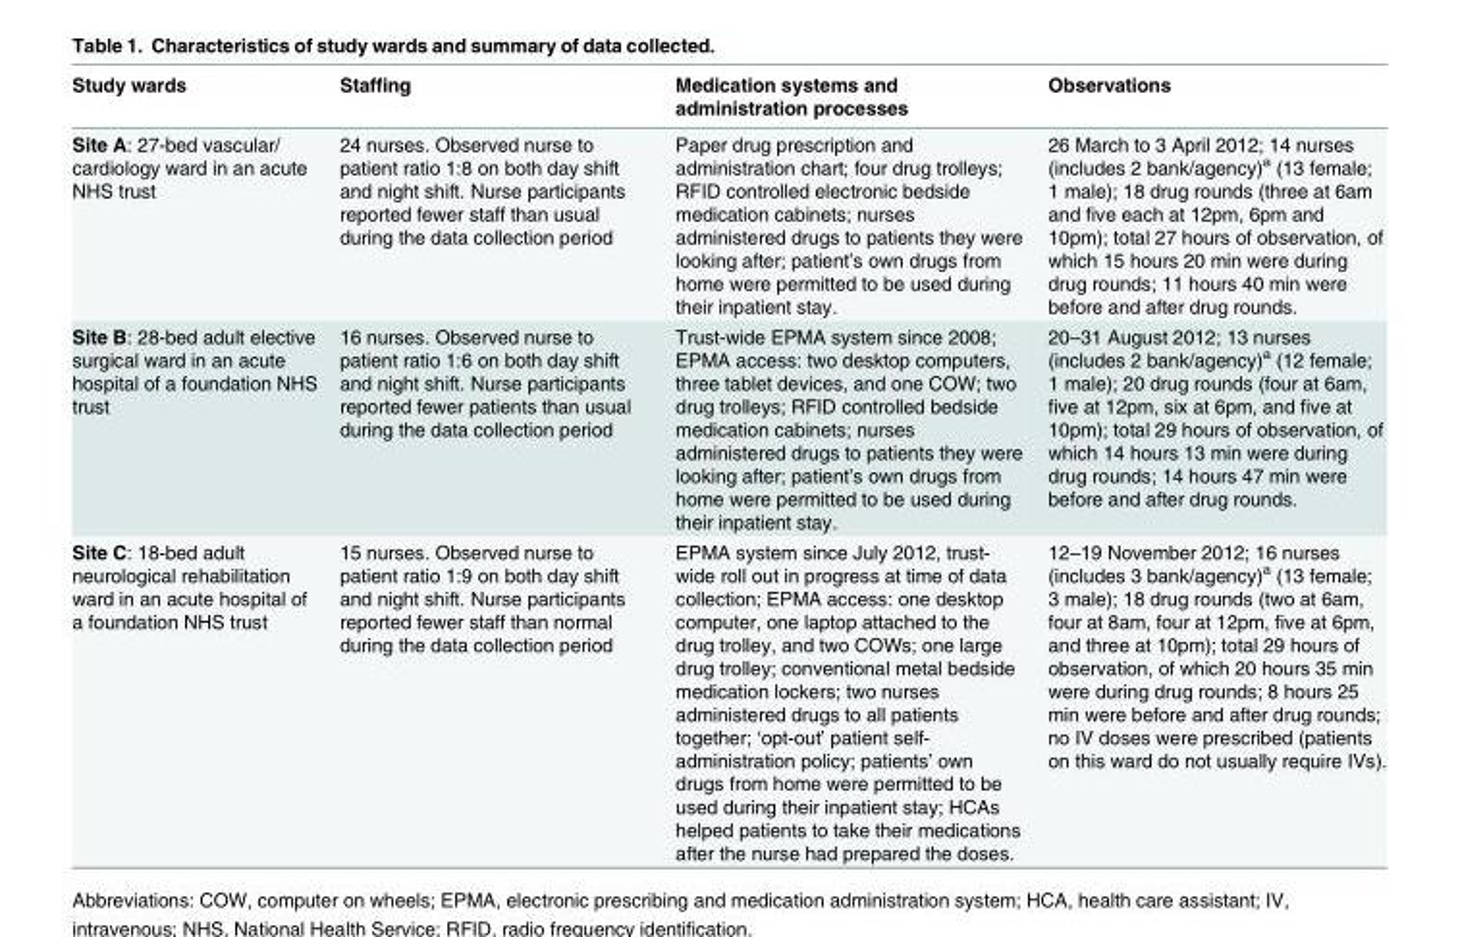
<table><thead><tr><td>Study wards</td><td>Staffing</td><td>Medication systems and administration processes</td><td>Observations</td></tr></thead><tbody><tr><td>Site A: 27-bed vascular/ cardiology ward in an acute NHS trust</td><td>24 nurses. Observed nurse to patient ratio 1:8 on both day shift and night shift. Nurse participants reported fewer staff than usual during the data collection period</td><td>Paper drug prescription and administration chart; four drug trolleys; RFID controlled electronic bedside medication cabinets; nurses administered drugs to patients they were looking after; patient’s own drugs from home were permitted to be used during their inpatient stay.</td><td>26 March to 3 April 2012; 14 nurses (includes 2 bank/agency)<sup>a</sup> (13 female; 1 male); 18 drug rounds (three at 6am and five each at 12pm, 6pm and 10pm); total 27 hours of observation, of which 15 hours 20 min were during drug rounds; 11 hours 40 min were before and after drug rounds.</td></tr><tr><td>Site B: 28-bed adult elective surgical ward in an acute hospital of a foundation NHS trust</td><td>16 nurses. Observed nurse to patient ratio 1:6 on both day shift and night shift. Nurse participants reported fewer patients than usual during the data collection period</td><td>Trust-wide EPMA system since 2008; EPMA access: two desktop computers, three tablet devices, and one COW; two drug trolleys; RFID controlled bedside medication cabinets; nurses administered drugs to patients they were looking after; patient’s own drugs from home were permitted to be used during their inpatient stay.</td><td>20–31 August 2012; 13 nurses (includes 2 bank/agency)<sup>a</sup> (12 female; 1 male); 20 drug rounds (four at 6am, five at 12pm, six at 6pm, and five at 10pm); total 29 hours of observation, of which 14 hours 13 min were during drug rounds; 14 hours 47 min were before and after drug rounds.</td></tr><tr><td>Site C: 18-bed adult neurological rehabilitation ward in an acute hospital of a foundation NHS trust</td><td>15 nurses. Observed nurse to patient ratio 1:9 on both day shift and night shift. Nurse participants reported fewer staff than normal during the data collection period</td><td>EPMA system since July 2012, trust- wide roll out in progress at time of data collection; EPMA access: one desktop computer, one laptop attached to the drug trolley, and two COWs; one large drug trolley; conventional metal bedside medication lockers; two nurses administered drugs to all patients together; ‘opt-out’ patient self- administration policy; patients’ own drugs from home were permitted to be used during their inpatient stay; HCAs helped patients to take their medications after the nurse had prepared the doses.</td><td>12–19 November 2012; 16 nurses (includes 3 bank/agency)<sup>a</sup> (13 female; 3 male); 18 drug rounds (two at 6am, four at 8am, four at 12pm, five at 6pm, and three at 10pm); total 29 hours of observation, of which 20 hours 35 min were during drug rounds; 8 hours 25 min were before and after drug rounds; no IV doses were prescribed (patients on this ward do not usually require IVs).</td></tr></tbody></table>